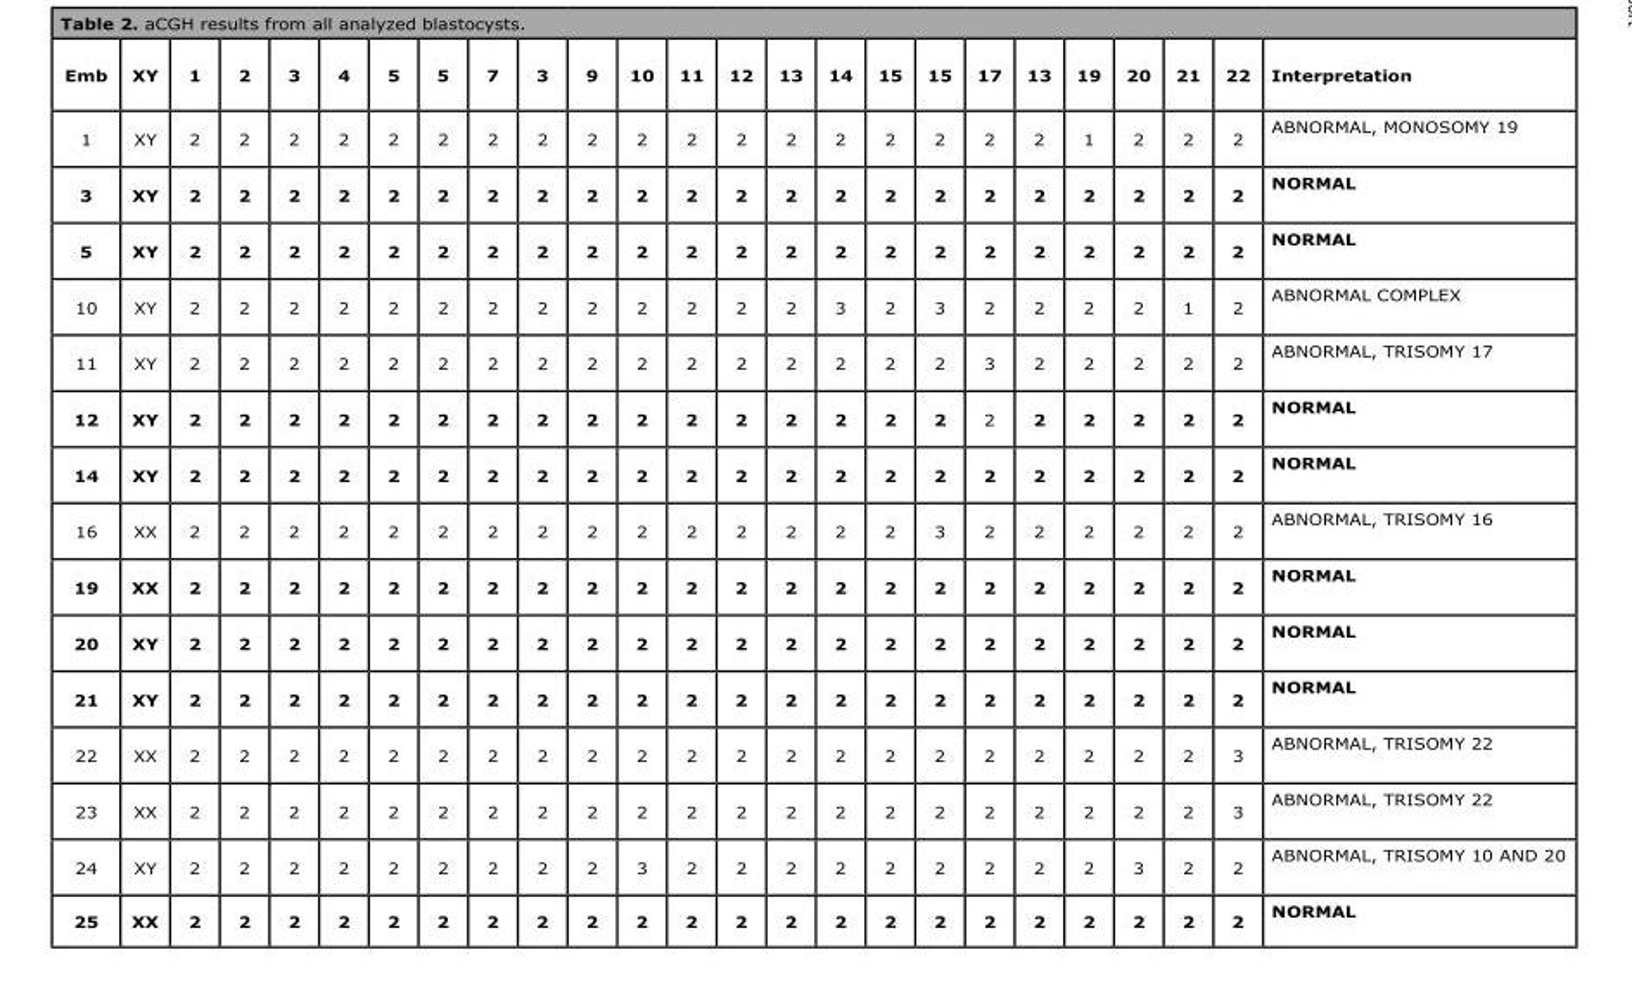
<table><thead><tr><td>Emb</td><td>XY</td><td>1</td><td>2</td><td>3</td><td>4</td><td>5</td><td>5</td><td>7</td><td>3</td><td>9</td><td>10</td><td>11</td><td>12</td><td>13</td><td>14</td><td>15</td><td>15</td><td>17</td><td>13</td><td>19</td><td>20</td><td>21</td><td>22</td><td>Interpretation</td></tr></thead><tbody><tr><td>1</td><td>XY</td><td>2</td><td>2</td><td>2</td><td>2</td><td>2</td><td>2</td><td>2</td><td>2</td><td>2</td><td>2</td><td>2</td><td>2</td><td>2</td><td>2</td><td>2</td><td>2</td><td>2</td><td>2</td><td>1</td><td>2</td><td>2</td><td>2</td><td>ABNORMAL, MONOSOMY 19</td></tr><tr><td>3</td><td>XY</td><td>2</td><td>2</td><td>2</td><td>2</td><td>2</td><td>2</td><td>2</td><td>2</td><td>2</td><td>2</td><td>2</td><td>2</td><td>2</td><td>2</td><td>2</td><td>2</td><td>2</td><td>2</td><td>2</td><td>2</td><td>2</td><td>2</td><td>NORMAL</td></tr><tr><td>5</td><td>XY</td><td>2</td><td>2</td><td>2</td><td>2</td><td>2</td><td>2</td><td>2</td><td>2</td><td>2</td><td>2</td><td>2</td><td>2</td><td>2</td><td>2</td><td>2</td><td>2</td><td>2</td><td>2</td><td>2</td><td>2</td><td>2</td><td>2</td><td>NORMAL</td></tr><tr><td>10</td><td>XY</td><td>2</td><td>2</td><td>2</td><td>2</td><td>2</td><td>2</td><td>2</td><td>2</td><td>2</td><td>2</td><td>2</td><td>2</td><td>2</td><td>3</td><td>2</td><td>3</td><td>2</td><td>2</td><td>2</td><td>2</td><td>1</td><td>2</td><td>ABNORMAL COMPLEX</td></tr><tr><td>11</td><td>XY</td><td>2</td><td>2</td><td>2</td><td>2</td><td>2</td><td>2</td><td>2</td><td>2</td><td>2</td><td>2</td><td>2</td><td>2</td><td>2</td><td>2</td><td>2</td><td>2</td><td>3</td><td>2</td><td>2</td><td>2</td><td>2</td><td>2</td><td>ABNORMAL, TRISOMY 17</td></tr><tr><td>12</td><td>XY</td><td>2</td><td>2</td><td>2</td><td>2</td><td>2</td><td>2</td><td>2</td><td>2</td><td>2</td><td>2</td><td>2</td><td>2</td><td>2</td><td>2</td><td>2</td><td>2</td><td>2</td><td>2</td><td>2</td><td>2</td><td>2</td><td>2</td><td>NORMAL</td></tr><tr><td>14</td><td>XY</td><td>2</td><td>2</td><td>2</td><td>2</td><td>2</td><td>2</td><td>2</td><td>2</td><td>2</td><td>2</td><td>2</td><td>2</td><td>2</td><td>2</td><td>2</td><td>2</td><td>2</td><td>2</td><td>2</td><td>2</td><td>2</td><td>2</td><td>NORMAL</td></tr><tr><td>16</td><td>XX</td><td>2</td><td>2</td><td>2</td><td>2</td><td>2</td><td>2</td><td>2</td><td>2</td><td>2</td><td>2</td><td>2</td><td>2</td><td>2</td><td>2</td><td>2</td><td>3</td><td>2</td><td>2</td><td>2</td><td>2</td><td>2</td><td>2</td><td>ABNORMAL, TRISOMY 16</td></tr><tr><td>19</td><td>XX</td><td>2</td><td>2</td><td>2</td><td>2</td><td>2</td><td>2</td><td>2</td><td>2</td><td>2</td><td>2</td><td>2</td><td>2</td><td>2</td><td>2</td><td>2</td><td>2</td><td>2</td><td>2</td><td>2</td><td>2</td><td>2</td><td>2</td><td>NORMAL</td></tr><tr><td>20</td><td>XY</td><td>2</td><td>2</td><td>2</td><td>2</td><td>2</td><td>2</td><td>2</td><td>2</td><td>2</td><td>2</td><td>2</td><td>2</td><td>2</td><td>2</td><td>2</td><td>2</td><td>2</td><td>2</td><td>2</td><td>2</td><td>2</td><td>2</td><td>NORMAL</td></tr><tr><td>21</td><td>XY</td><td>2</td><td>2</td><td>2</td><td>2</td><td>2</td><td>2</td><td>2</td><td>2</td><td>2</td><td>2</td><td>2</td><td>2</td><td>2</td><td>2</td><td>2</td><td>2</td><td>2</td><td>2</td><td>2</td><td>2</td><td>2</td><td>2</td><td>NORMAL</td></tr><tr><td>22</td><td>XX</td><td>2</td><td>2</td><td>2</td><td>2</td><td>2</td><td>2</td><td>2</td><td>2</td><td>2</td><td>2</td><td>2</td><td>2</td><td>2</td><td>2</td><td>2</td><td>2</td><td>2</td><td>2</td><td>2</td><td>2</td><td>2</td><td>3</td><td>ABNORMAL, TRISOMY 22</td></tr><tr><td>23</td><td>XX</td><td>2</td><td>2</td><td>2</td><td>2</td><td>2</td><td>2</td><td>2</td><td>2</td><td>2</td><td>2</td><td>2</td><td>2</td><td>2</td><td>2</td><td>2</td><td>2</td><td>2</td><td>2</td><td>2</td><td>2</td><td>2</td><td>3</td><td>ABNORMAL, TRISOMY 22</td></tr><tr><td>24</td><td>XY</td><td>2</td><td>2</td><td>2</td><td>2</td><td>2</td><td>2</td><td>2</td><td>2</td><td>2</td><td>3</td><td>2</td><td>2</td><td>2</td><td>2</td><td>2</td><td>2</td><td>2</td><td>2</td><td>2</td><td>3</td><td>2</td><td>2</td><td>ABNORMAL, TRISOMY 10 AND 20</td></tr><tr><td>25</td><td>XX</td><td>2</td><td>2</td><td>2</td><td>2</td><td>2</td><td>2</td><td>2</td><td>2</td><td>2</td><td>2</td><td>2</td><td>2</td><td>2</td><td>2</td><td>2</td><td>2</td><td>2</td><td>2</td><td>2</td><td>2</td><td>2</td><td>2</td><td>NORMAL</td></tr></tbody></table>